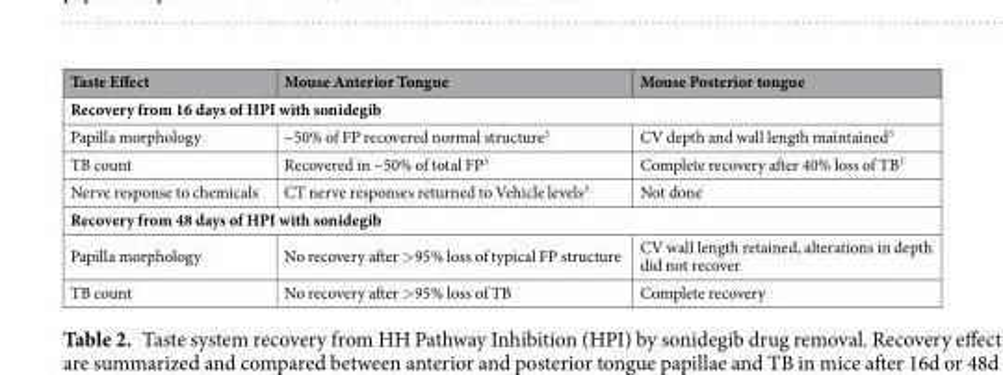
<table><thead><tr><td>Taste Effect</td><td>Mouse Anterior Tongue</td><td>Mouse Posterior tongue</td></tr></thead><tbody><tr><td colspan="3">Recovery from 16 days of HPI with sonidegib</td></tr><tr><td>Papilla morphology</td><td>~50% of FP recovered normal structure<sup>3</sup></td><td>CV depth and wall length maintained<sup>3</sup></td></tr><tr><td>TB count</td><td>Recovered in ~50% of total FP<sup>3</sup></td><td>Complete recovery after 40% loss of TB<sup>3</sup></td></tr><tr><td>Nerve response to chemicals</td><td>CT nerve responses returned to Vehicle levels<sup>3</sup></td><td>Not done</td></tr><tr><td colspan="3">Recovery from 48 days of HPI with sonidegib</td></tr><tr><td>Papilla morphology</td><td>No recovery after &gt;95% loss of typical FP structure</td><td>CV wall length retained, alterations in depth did not recover</td></tr><tr><td>TB count</td><td>No recovery after &gt;95% loss of TB</td><td>Complete recovery</td></tr></tbody></table>